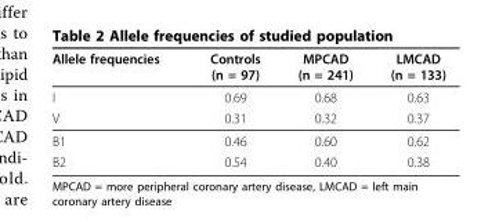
<table><thead><tr><td>Allele frequencies</td><td>Controls (n = 97)</td><td>MPCAD (n = 241)</td><td>LMCAD (n = 133)</td></tr></thead><tbody><tr><td>I</td><td>0.69</td><td>0.68</td><td>0.63</td></tr><tr><td>V</td><td>0.31</td><td>0.32</td><td>0.37</td></tr><tr><td>B1</td><td>0.46</td><td>0.60</td><td>0.62</td></tr><tr><td>B2</td><td>0.54</td><td>0.40</td><td>0.38</td></tr></tbody></table>